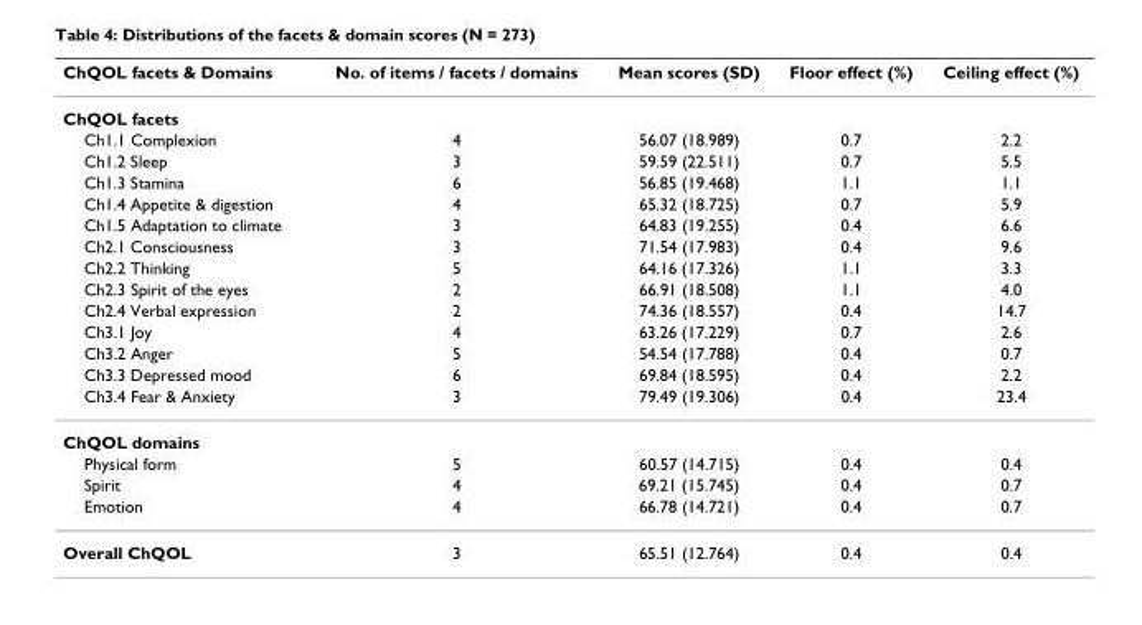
<table><thead><tr><td>ChQOL facets &amp; Domains</td><td>No. of items / facets / domains</td><td>Mean scores (SD)</td><td>Floor effect (%)</td><td>Ceiling effect (%)</td></tr></thead><tbody><tr><td colspan="5">ChQOL facets</td></tr><tr><td>Ch1.1 Complexion</td><td>4</td><td>56.07 (18.989)</td><td>0.7</td><td>2.2</td></tr><tr><td>Ch1.2 Sleep</td><td>3</td><td>59.59 (22.511)</td><td>0.7</td><td>5.5</td></tr><tr><td>Ch1.3 Stamina</td><td>6</td><td>56.85 (19.468)</td><td>1.1</td><td>1.1</td></tr><tr><td>Ch1.4 Appetite &amp; digestion</td><td>4</td><td>65.32 (18.725)</td><td>0.7</td><td>5.9</td></tr><tr><td>Ch1.5 Adaptation to climate</td><td>3</td><td>64.83 (19.255)</td><td>0.4</td><td>6.6</td></tr><tr><td>Ch2.1 Consciousness</td><td>3</td><td>71.54 (17.983)</td><td>0.4</td><td>9.6</td></tr><tr><td>Ch2.2 Thinking</td><td>5</td><td>64.16 (17.326)</td><td>1.1</td><td>3.3</td></tr><tr><td>Ch2.3 Spirit of the eyes</td><td>2</td><td>66.91 (18.508)</td><td>1.1</td><td>4.0</td></tr><tr><td>Ch2.4 Verbal expression</td><td>2</td><td>74.36 (18.557)</td><td>0.4</td><td>14.7</td></tr><tr><td>Ch3.1 Joy</td><td>4</td><td>63.26 (17.229)</td><td>0.7</td><td>2.6</td></tr><tr><td>Ch3.2 Anger</td><td>5</td><td>54.54 (17.788)</td><td>0.4</td><td>0.7</td></tr><tr><td>Ch3.3 Depressed mood</td><td>6</td><td>69.84 (18.595)</td><td>0.4</td><td>2.2</td></tr><tr><td>Ch3.4 Fear &amp; Anxiety</td><td>3</td><td>79.49 (19.306)</td><td>0.4</td><td>23.4</td></tr><tr><td colspan="5">ChQOL domains</td></tr><tr><td>Physical form</td><td>5</td><td>60.57 (14.715)</td><td>0.4</td><td>0.4</td></tr><tr><td>Spirit</td><td>4</td><td>69.21 (15.745)</td><td>0.4</td><td>0.7</td></tr><tr><td>Emotion</td><td>4</td><td>66.78 (14.721)</td><td>0.4</td><td>0.7</td></tr><tr><td>Overall ChQOL</td><td>3</td><td>65.51 (12.764)</td><td>0.4</td><td>0.4</td></tr></tbody></table>